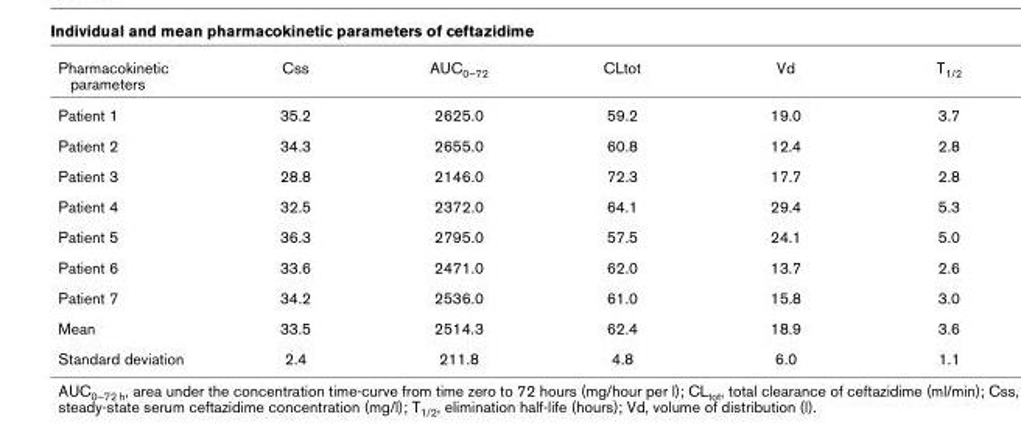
<table><thead><tr><td>Pharmacokinetic parameters</td><td>Css</td><td>AUC0–72</td><td>CLtot</td><td>Vd</td><td>T1/2</td></tr></thead><tbody><tr><td>Patient 1</td><td>35.2</td><td>2625.0</td><td>59.2</td><td>19.0</td><td>3.7</td></tr><tr><td>Patient 2</td><td>34.3</td><td>2655.0</td><td>60.8</td><td>12.4</td><td>2.8</td></tr><tr><td>Patient 3</td><td>28.8</td><td>2146.0</td><td>72.3</td><td>17.7</td><td>2.8</td></tr><tr><td>Patient 4</td><td>32.5</td><td>2372.0</td><td>64.1</td><td>29.4</td><td>5.3</td></tr><tr><td>Patient 5</td><td>36.3</td><td>2795.0</td><td>57.5</td><td>24.1</td><td>5.0</td></tr><tr><td>Patient 6</td><td>33.6</td><td>2471.0</td><td>62.0</td><td>13.7</td><td>2.6</td></tr><tr><td>Patient 7</td><td>34.2</td><td>2536.0</td><td>61.0</td><td>15.8</td><td>3.0</td></tr><tr><td>Mean</td><td>33.5</td><td>2514.3</td><td>62.4</td><td>18.9</td><td>3.6</td></tr><tr><td>Standard deviation</td><td>2.4</td><td>211.8</td><td>4.8</td><td>6.0</td><td>1.1</td></tr></tbody></table>